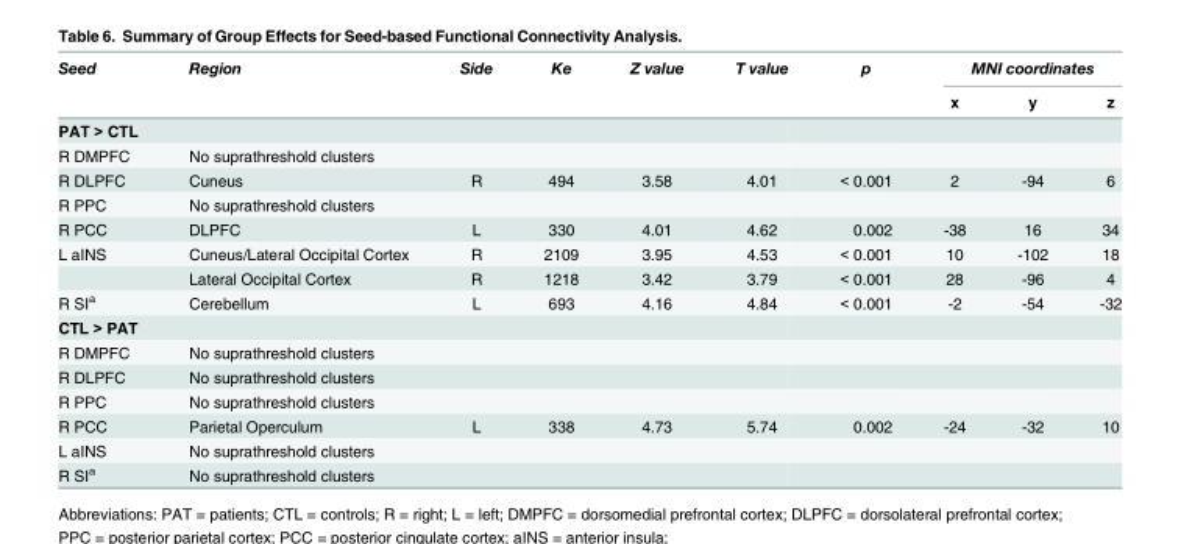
<table><thead><tr><td rowspan="2">Seed</td><td rowspan="2">Region</td><td rowspan="2">Side</td><td rowspan="2">Ke</td><td rowspan="2">Z value</td><td rowspan="2">T value</td><td rowspan="2">p</td><td colspan="3">MNI coordinates</td></tr><tr><td>x</td><td>y</td><td>z</td></tr></thead><tbody><tr><td colspan="10">PAT &gt; CTL</td></tr><tr><td>R DMPFC</td><td>No suprathreshold clusters</td><td></td><td></td><td></td><td></td><td></td><td></td><td></td><td></td></tr><tr><td>R DLPFC</td><td>Cuneus</td><td>R</td><td>494</td><td>3.58</td><td>4.01</td><td>&lt; 0.001</td><td>2</td><td>-94</td><td>6</td></tr><tr><td>R PPC</td><td>No suprathreshold clusters</td><td></td><td></td><td></td><td></td><td></td><td></td><td></td><td></td></tr><tr><td>R PCC</td><td>DLPFC</td><td>L</td><td>330</td><td>4.01</td><td>4.62</td><td>0.002</td><td>-38</td><td>16</td><td>34</td></tr><tr><td rowspan="2">L aINS</td><td>Cuneus/Lateral Occipital Cortex</td><td>R</td><td>2109</td><td>3.95</td><td>4.53</td><td>&lt; 0.001</td><td>10</td><td>-102</td><td>18</td></tr><tr><td>Lateral Occipital Cortex</td><td>R</td><td>1218</td><td>3.42</td><td>3.79</td><td>&lt; 0.001</td><td>28</td><td>-96</td><td>4</td></tr><tr><td>R SI<sup>a</sup></td><td>Cerebellum</td><td>L</td><td>693</td><td>4.16</td><td>4.84</td><td>&lt; 0.001</td><td>-2</td><td>-54</td><td>-32</td></tr><tr><td colspan="10">CTL &gt; PAT</td></tr><tr><td>R DMPFC</td><td>No suprathreshold clusters</td><td></td><td></td><td></td><td></td><td></td><td></td><td></td><td></td></tr><tr><td>R DLPFC</td><td>No suprathreshold clusters</td><td></td><td></td><td></td><td></td><td></td><td></td><td></td><td></td></tr><tr><td>R PPC</td><td>No suprathreshold clusters</td><td></td><td></td><td></td><td></td><td></td><td></td><td></td><td></td></tr><tr><td>R PCC</td><td>Parietal Operculum</td><td>L</td><td>338</td><td>4.73</td><td>5.74</td><td>0.002</td><td>-24</td><td>-32</td><td>10</td></tr><tr><td>L aINS</td><td>No suprathreshold clusters</td><td></td><td></td><td></td><td></td><td></td><td></td><td></td><td></td></tr><tr><td>R SI<sup>a</sup></td><td>No suprathreshold clusters</td><td></td><td></td><td></td><td></td><td></td><td></td><td></td><td></td></tr></tbody></table>